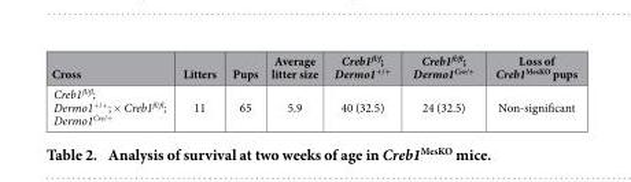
<table><thead><tr><td>Cross</td><td>Litters</td><td>Pups</td><td>Average litter size</td><td>Creb1<sup>fl/f</sup>; Dermo1<sup>+/+</sup></td><td>Creb1<sup>fl/fl</sup>; Dermo1<sup>Cre/+</sup></td><td>Loss of Creb1<sup>MesKO</sup> pups</td></tr></thead><tbody><tr><td>Creb1<sup>fl/fl</sup>; Dermo1<sup>+/+</sup>; × Creb1<sup>fl/fl</sup>; Dermo1<sup>Cre/+</sup></td><td>11</td><td>65</td><td>5.9</td><td>40 (32.5)</td><td>24 (32.5)</td><td>Non-significant</td></tr></tbody></table>